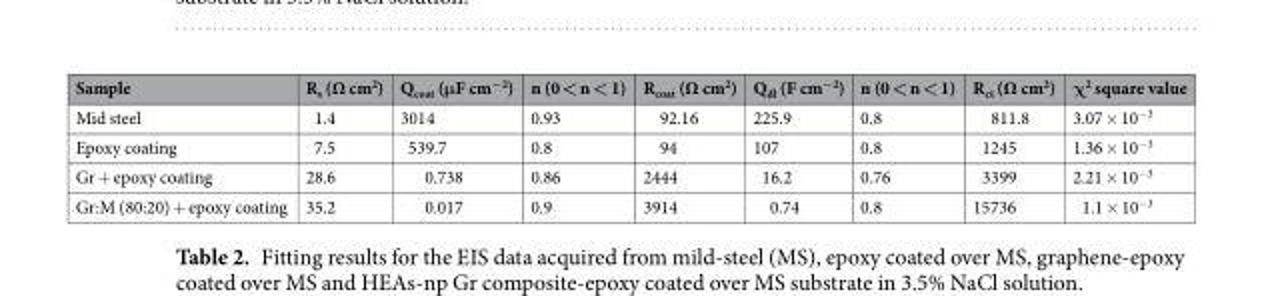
<table><thead><tr><td>Sample</td><td>R<sub>s</sub> (Ω cm<sup>2</sup>)</td><td>Q<sub>coat</sub> (μF cm<sup>−2</sup>)</td><td>n (0 &lt; n &lt; 1)</td><td>R<sub>coat</sub> (Ω cm<sup>2</sup>)</td><td>Q<sub>dl</sub> (F cm<sup>−2</sup>)</td><td>n (0 &lt; n &lt; 1)</td><td>R<sub>ct</sub> (Ω cm<sup>2</sup>)</td><td>χ<sup>2</sup> square value</td></tr></thead><tbody><tr><td>Mid steel</td><td>1.4</td><td>3014</td><td>0.93</td><td>92.16</td><td>225.9</td><td>0.8</td><td>811.8</td><td>3.07 × 10<sup>−3</sup></td></tr><tr><td>Epoxy coating</td><td>7.5</td><td>539.7</td><td>0.8</td><td>94</td><td>107</td><td>0.8</td><td>1245</td><td>1.36 × 10<sup>−3</sup></td></tr><tr><td>Gr + epoxy coating</td><td>28.6</td><td>0.738</td><td>0.86</td><td>2444</td><td>16.2</td><td>0.76</td><td>3399</td><td>2.21 × 10<sup>−3</sup></td></tr><tr><td>Gr:M (80:20) + epoxy coating</td><td>35.2</td><td>0.017</td><td>0.9</td><td>3914</td><td>0.74</td><td>0.8</td><td>15736</td><td>1.1 × 10<sup>−3</sup></td></tr></tbody></table>